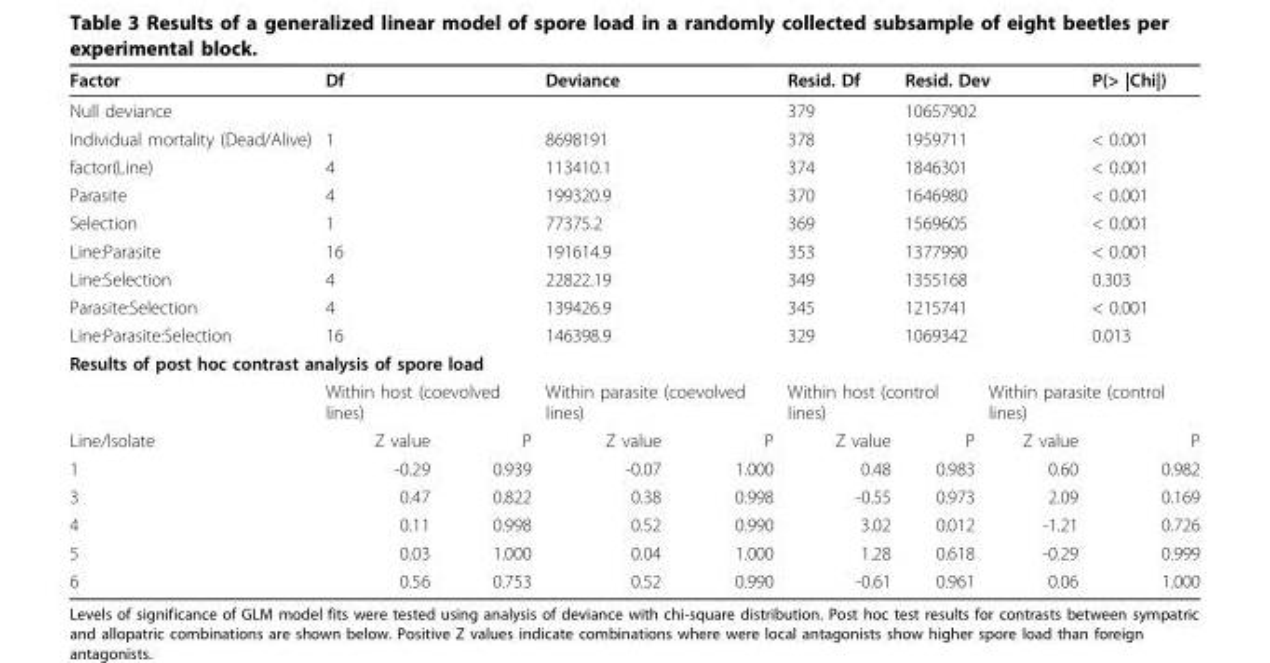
<table><thead><tr><td>Factor</td><td colspan="2">Df</td><td colspan="2">Deviance</td><td>Resid. Df</td><td colspan="2">Resid. Dev</td><td>P(&gt; |Chi|)</td></tr></thead><tbody><tr><td>Null deviance</td><td></td><td></td><td></td><td></td><td>379</td><td colspan="2">10657902</td><td></td></tr><tr><td>Individual mortality (Dead/Alive)</td><td colspan="2">1</td><td colspan="2">8698191</td><td>378</td><td colspan="2">1959711</td><td>&lt; 0.001</td></tr><tr><td>factor(Line)</td><td colspan="2">4</td><td colspan="2">113410.1</td><td>374</td><td colspan="2">1846301</td><td>&lt; 0.001</td></tr><tr><td>Parasite</td><td colspan="2">4</td><td colspan="2">199320.9</td><td>370</td><td colspan="2">1646980</td><td>&lt; 0.001</td></tr><tr><td>Selection</td><td colspan="2">1</td><td colspan="2">77375.2</td><td>369</td><td colspan="2">1569605</td><td>&lt; 0.001</td></tr><tr><td>Line:Parasite</td><td colspan="2">16</td><td colspan="2">191614.9</td><td>353</td><td colspan="2">1377990</td><td>&lt; 0.001</td></tr><tr><td>Line:Selection</td><td colspan="2">4</td><td colspan="2">22822.19</td><td>349</td><td colspan="2">1355168</td><td>0.303</td></tr><tr><td>Parasite:Selection</td><td colspan="2">4</td><td colspan="2">139426.9</td><td>345</td><td colspan="2">1215741</td><td>&lt; 0.001</td></tr><tr><td>Line:Parasite:Selection</td><td colspan="2">16</td><td colspan="2">146398.9</td><td>329</td><td colspan="2">1069342</td><td>0.013</td></tr><tr><td colspan="9">Results of post hoc contrast analysis of spore load</td></tr><tr><td></td><td colspan="2">Within host (coevolved lines)</td><td colspan="2">Within parasite (coevolved lines)</td><td colspan="2">Within host (control lines)</td><td colspan="2">Within parasite (control lines)</td></tr><tr><td>Line/Isolate</td><td>Z value</td><td>P</td><td>Z value</td><td>P</td><td>Z value</td><td>P</td><td>Z value</td><td>P</td></tr><tr><td>1</td><td>-0.29</td><td>0.939</td><td>-0.07</td><td>1.000</td><td>0.48</td><td>0.983</td><td>0.60</td><td>0.982</td></tr><tr><td>3</td><td>0.47</td><td>0.822</td><td>0.38</td><td>0.998</td><td>-0.55</td><td>0.973</td><td>2.09</td><td>0.169</td></tr><tr><td>4</td><td>0.11</td><td>0.998</td><td>0.52</td><td>0.990</td><td>3.02</td><td>0.012</td><td>-1.21</td><td>0.726</td></tr><tr><td>5</td><td>0.03</td><td>1.000</td><td>0.04</td><td>1.000</td><td>1.28</td><td>0.618</td><td>-0.29</td><td>0.999</td></tr><tr><td>6</td><td>0.56</td><td>0.753</td><td>0.52</td><td>0.990</td><td>-0.61</td><td>0.961</td><td>0.06</td><td>1.000</td></tr></tbody></table>